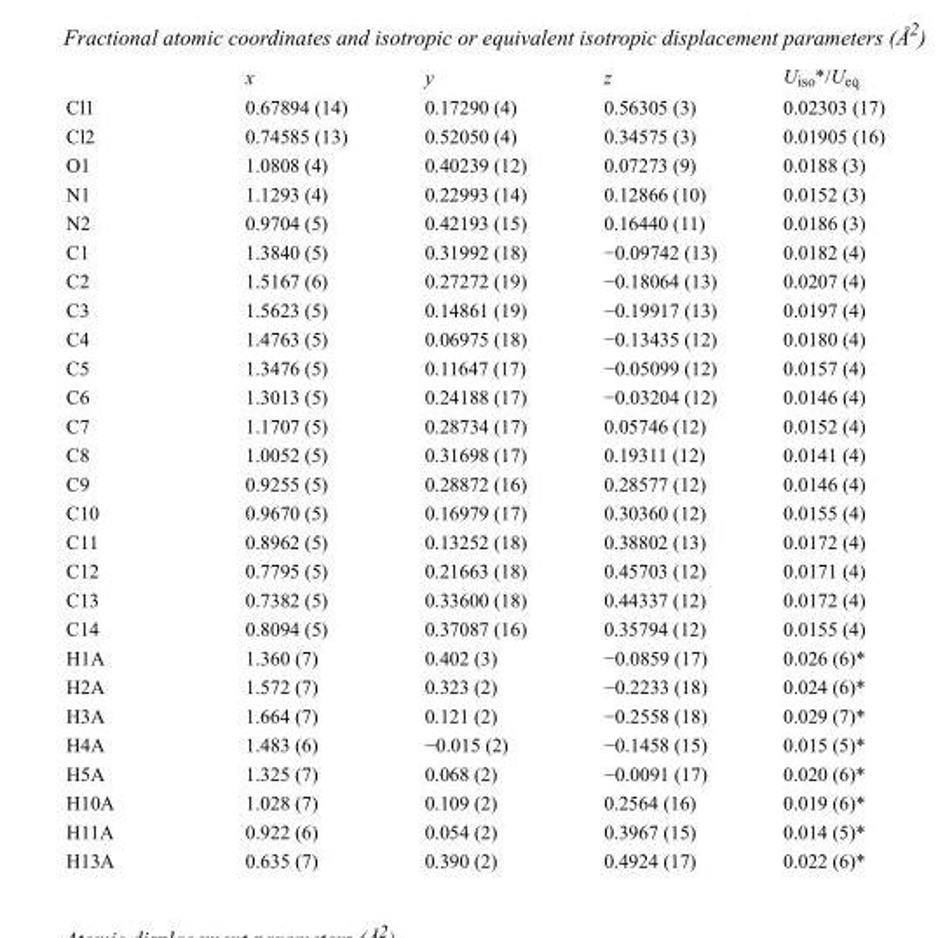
<table><thead><tr><td></td><td>x</td><td>y</td><td>z</td><td>U<sub>iso</sub>*/U<sub>eq</sub></td></tr></thead><tbody><tr><td>Cl1</td><td>0.67894 (14)</td><td>0.17290 (4)</td><td>0.56305 (3)</td><td>0.02303 (17)</td></tr><tr><td>Cl2</td><td>0.74585 (13)</td><td>0.52050 (4)</td><td>0.34575 (3)</td><td>0.01905 (16)</td></tr><tr><td>O1</td><td>1.0808 (4)</td><td>0.40239 (12)</td><td>0.07273 (9)</td><td>0.0188 (3)</td></tr><tr><td>N1</td><td>1.1293 (4)</td><td>0.22993 (14)</td><td>0.12866 (10)</td><td>0.0152 (3)</td></tr><tr><td>N2</td><td>0.9704 (5)</td><td>0.42193 (15)</td><td>0.16440 (11)</td><td>0.0186 (3)</td></tr><tr><td>C1</td><td>1.3840 (5)</td><td>0.31992 (18)</td><td>−0.09742 (13)</td><td>0.0182 (4)</td></tr><tr><td>C2</td><td>1.5167 (6)</td><td>0.27272 (19)</td><td>−0.18064 (13)</td><td>0.0207 (4)</td></tr><tr><td>C3</td><td>1.5623 (5)</td><td>0.14861 (19)</td><td>−0.19917 (13)</td><td>0.0197 (4)</td></tr><tr><td>C4</td><td>1.4763 (5)</td><td>0.06975 (18)</td><td>−0.13435 (12)</td><td>0.0180 (4)</td></tr><tr><td>C5</td><td>1.3476 (5)</td><td>0.11647 (17)</td><td>−0.05099 (12)</td><td>0.0157 (4)</td></tr><tr><td>C6</td><td>1.3013 (5)</td><td>0.24188 (17)</td><td>−0.03204 (12)</td><td>0.0146 (4)</td></tr><tr><td>C7</td><td>1.1707 (5)</td><td>0.28734 (17)</td><td>0.05746 (12)</td><td>0.0152 (4)</td></tr><tr><td>C8</td><td>1.0052 (5)</td><td>0.31698 (17)</td><td>0.19311 (12)</td><td>0.0141 (4)</td></tr><tr><td>C9</td><td>0.9255 (5)</td><td>0.28872 (16)</td><td>0.28577 (12)</td><td>0.0146 (4)</td></tr><tr><td>C10</td><td>0.9670 (5)</td><td>0.16979 (17)</td><td>0.30360 (12)</td><td>0.0155 (4)</td></tr><tr><td>C11</td><td>0.8962 (5)</td><td>0.13252 (18)</td><td>0.38802 (13)</td><td>0.0172 (4)</td></tr><tr><td>C12</td><td>0.7795 (5)</td><td>0.21663 (18)</td><td>0.45703 (12)</td><td>0.0171 (4)</td></tr><tr><td>C13</td><td>0.7382 (5)</td><td>0.33600 (18)</td><td>0.44337 (12)</td><td>0.0172 (4)</td></tr><tr><td>C14</td><td>0.8094 (5)</td><td>0.37087 (16)</td><td>0.35794 (12)</td><td>0.0155 (4)</td></tr><tr><td>H1A</td><td>1.360 (7)</td><td>0.402 (3)</td><td>−0.0859 (17)</td><td>0.026 (6)*</td></tr><tr><td>H2A</td><td>1.572 (7)</td><td>0.323 (2)</td><td>−0.2233 (18)</td><td>0.024 (6)*</td></tr><tr><td>H3A</td><td>1.664 (7)</td><td>0.121 (2)</td><td>−0.2558 (18)</td><td>0.029 (7)*</td></tr><tr><td>H4A</td><td>1.483 (6)</td><td>−0.015 (2)</td><td>−0.1458 (15)</td><td>0.015 (5)*</td></tr><tr><td>H5A</td><td>1.325 (7)</td><td>0.068 (2)</td><td>−0.0091 (17)</td><td>0.020 (6)*</td></tr><tr><td>H10A</td><td>1.028 (7)</td><td>0.109 (2)</td><td>0.2564 (16)</td><td>0.019 (6)*</td></tr><tr><td>H11A</td><td>0.922 (6)</td><td>0.054 (2)</td><td>0.3967 (15)</td><td>0.014 (5)*</td></tr><tr><td>H13A</td><td>0.635 (7)</td><td>0.390 (2)</td><td>0.4924 (17)</td><td>0.022 (6)*</td></tr></tbody></table>